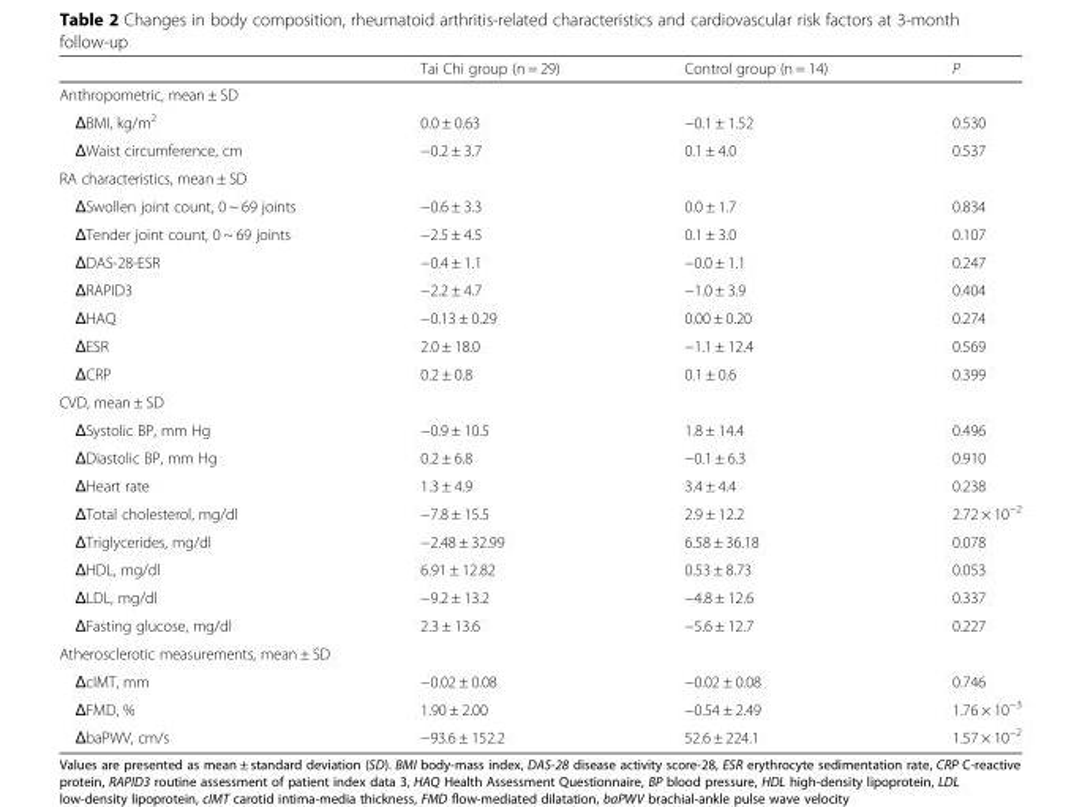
<table><thead><tr><td></td><td>Tai Chi group (n = 29)</td><td>Control group (n = 14)</td><td>P</td></tr></thead><tbody><tr><td colspan="4">Anthropometric, mean ± SD</td></tr><tr><td>ΔBMI, kg/m<sup>2</sup></td><td>0.0 ± 0.63</td><td>−0.1 ± 1.52</td><td>0.530</td></tr><tr><td>ΔWaist circumference, cm</td><td>−0.2 ± 3.7</td><td>0.1 ± 4.0</td><td>0.537</td></tr><tr><td colspan="4">RA characteristics, mean ± SD</td></tr><tr><td>ΔSwollen joint count, 0 ~ 69 joints</td><td>−0.6 ± 3.3</td><td>0.0 ± 1.7</td><td>0.834</td></tr><tr><td>ΔTender joint count, 0 ~ 69 joints</td><td>−2.5 ± 4.5</td><td>0.1 ± 3.0</td><td>0.107</td></tr><tr><td>ΔDAS-28-ESR</td><td>−0.4 ± 1.1</td><td>−0.0 ± 1.1</td><td>0.247</td></tr><tr><td>ΔRAPID3</td><td>−2.2 ± 4.7</td><td>−1.0 ± 3.9</td><td>0.404</td></tr><tr><td>ΔHAQ</td><td>−0.13 ± 0.29</td><td>0.00 ± 0.20</td><td>0.274</td></tr><tr><td>ΔESR</td><td>2.0 ± 18.0</td><td>−1.1 ± 12.4</td><td>0.569</td></tr><tr><td>ΔCRP</td><td>0.2 ± 0.8</td><td>0.1 ± 0.6</td><td>0.399</td></tr><tr><td colspan="4">CVD, mean ± SD</td></tr><tr><td>ΔSystolic BP, mm Hg</td><td>−0.9 ± 10.5</td><td>1.8 ± 14.4</td><td>0.496</td></tr><tr><td>ΔDiastolic BP, mm Hg</td><td>0.2 ± 6.8</td><td>−0.1 ± 6.3</td><td>0.910</td></tr><tr><td>ΔHeart rate</td><td>1.3 ± 4.9</td><td>3.4 ± 4.4</td><td>0.238</td></tr><tr><td>ΔTotal cholesterol, mg/dl</td><td>−7.8 ± 15.5</td><td>2.9 ± 12.2</td><td>2.72 × 10<sup>−2</sup></td></tr><tr><td>ΔTriglycerides, mg/dl</td><td>−2.48 ± 32.99</td><td>6.58 ± 36.18</td><td>0.078</td></tr><tr><td>ΔHDL, mg/dl</td><td>6.91 ± 12.82</td><td>0.53 ± 8.73</td><td>0.053</td></tr><tr><td>ΔLDL, mg/dl</td><td>−9.2 ± 13.2</td><td>−4.8 ± 12.6</td><td>0.337</td></tr><tr><td>ΔFasting glucose, mg/dl</td><td>2.3 ± 13.6</td><td>−5.6 ± 12.7</td><td>0.227</td></tr><tr><td colspan="4">Atherosclerotic measurements, mean ± SD</td></tr><tr><td>ΔcIMT, mm</td><td>−0.02 ± 0.08</td><td>−0.02 ± 0.08</td><td>0.746</td></tr><tr><td>ΔFMD, %</td><td>1.90 ± 2.00</td><td>−0.54 ± 2.49</td><td>1.76 × 10<sup>−3</sup></td></tr><tr><td>ΔbaPWV, cm/s</td><td>−93.6 ± 152.2</td><td>52.6 ± 224.1</td><td>1.57 × 10<sup>−2</sup></td></tr></tbody></table>